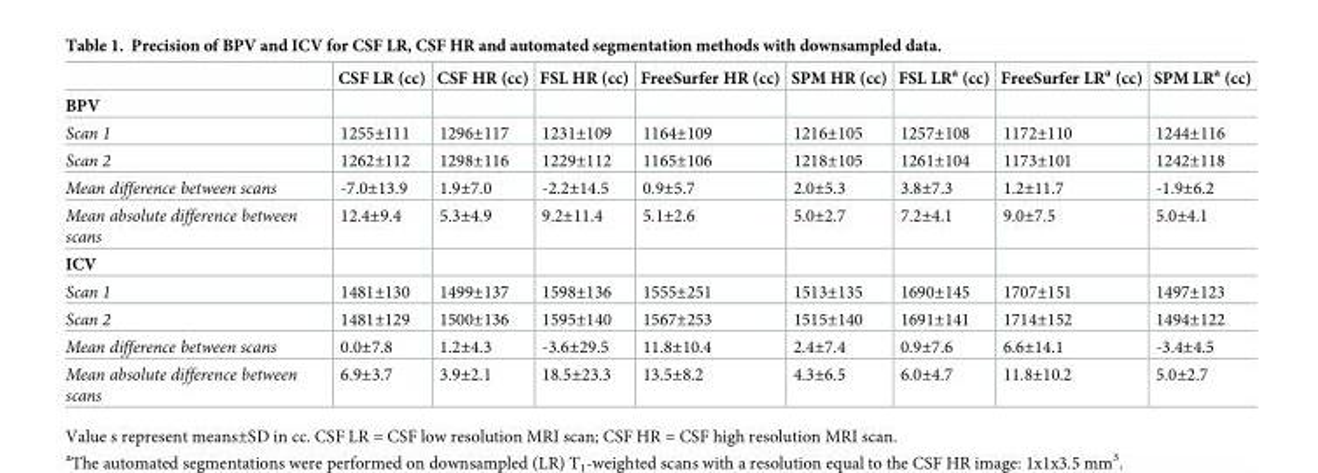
<table><thead><tr><td></td><td>CSF LR (cc)</td><td>CSF HR (cc)</td><td>FSL HR (cc)</td><td>FreeSurfer HR (cc)</td><td>SPM HR (cc)</td><td>FSL LR<sup>a</sup> (cc)</td><td>FreeSurfer LR<sup>a</sup> (cc)</td><td>SPM LR<sup>a</sup> (cc)</td></tr></thead><tbody><tr><td colspan="9">BPV</td></tr><tr><td>Scan 1</td><td>1255±111</td><td>1296±117</td><td>1231±109</td><td>1164±109</td><td>1216±105</td><td>1257±108</td><td>1172±110</td><td>1244±116</td></tr><tr><td>Scan 2</td><td>1262±112</td><td>1298±116</td><td>1229±112</td><td>1165±106</td><td>1218±105</td><td>1261±104</td><td>1173±101</td><td>1242±118</td></tr><tr><td>Mean difference between scans</td><td>-7.0±13.9</td><td>1.9±7.0</td><td>-2.2±14.5</td><td>0.9±5.7</td><td>2.0±5.3</td><td>3.8±7.3</td><td>1.2±11.7</td><td>-1.9±6.2</td></tr><tr><td>Mean absolute difference between scans</td><td>12.4±9.4</td><td>5.3±4.9</td><td>9.2±11.4</td><td>5.1±2.6</td><td>5.0±2.7</td><td>7.2±4.1</td><td>9.0±7.5</td><td>5.0±4.1</td></tr><tr><td colspan="9">ICV</td></tr><tr><td>Scan 1</td><td>1481±130</td><td>1499±137</td><td>1598±136</td><td>1555±251</td><td>1513±135</td><td>1690±145</td><td>1707±151</td><td>1497±123</td></tr><tr><td>Scan 2</td><td>1481±129</td><td>1500±136</td><td>1595±140</td><td>1567±253</td><td>1515±140</td><td>1691±141</td><td>1714±152</td><td>1494±122</td></tr><tr><td>Mean difference between scans</td><td>0.0±7.8</td><td>1.2±4.3</td><td>-3.6±29.5</td><td>11.8±10.4</td><td>2.4±7.4</td><td>0.9±7.6</td><td>6.6±14.1</td><td>-3.4±4.5</td></tr><tr><td>Mean absolute difference between scans</td><td>6.9±3.7</td><td>3.9±2.1</td><td>18.5±23.3</td><td>13.5±8.2</td><td>4.3±6.5</td><td>6.0±4.7</td><td>11.8±10.2</td><td>5.0±2.7</td></tr></tbody></table>